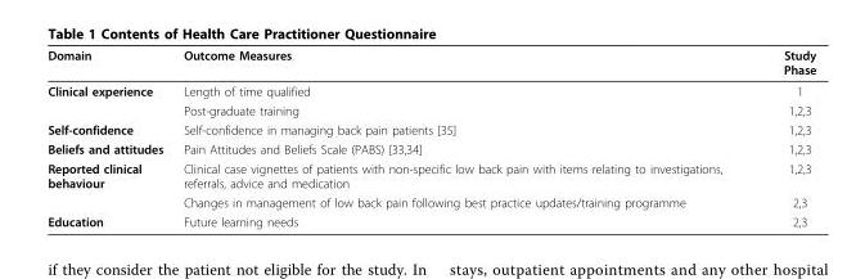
<table><thead><tr><td>Domain</td><td>Outcome Measures</td><td>Study Phase</td></tr></thead><tbody><tr><td rowspan="2">Clinical experience</td><td>Length of time qualified</td><td>1</td></tr><tr><td>Post-graduate training</td><td>1,2,3</td></tr><tr><td>Self-confidence</td><td>Self-confidence in managing back pain patients [35]</td><td>1,2,3</td></tr><tr><td>Beliefs and attitudes</td><td>Pain Attitudes and Beliefs Scale (PABS) [33,34]</td><td>1,2,3</td></tr><tr><td rowspan="2">Reported clinical behaviour</td><td>Clinical case vignettes of patients with non-specific low back pain with items relating to investigations, referrals, advice and medication</td><td>1,2,3</td></tr><tr><td>Changes in management of low back pain following best practice updates/training programme</td><td>2,3</td></tr><tr><td>Education</td><td>Future learning needs</td><td>2,3</td></tr></tbody></table>